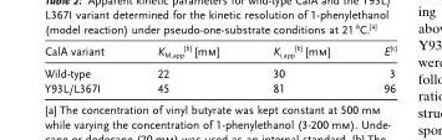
<table><thead><tr><td>CalA variant</td><td>K<sub>M,app</sub> <sup>[b]</sup> [mm]</td><td>K<sub>i,app</sub> <sup>[b]</sup> [mm]</td><td>E<sup>[c]</sup></td></tr></thead><tbody><tr><td>Wild-type</td><td>22</td><td>30</td><td>3</td></tr><tr><td>Y93L/L367I</td><td>45</td><td>81</td><td>96</td></tr></tbody></table>